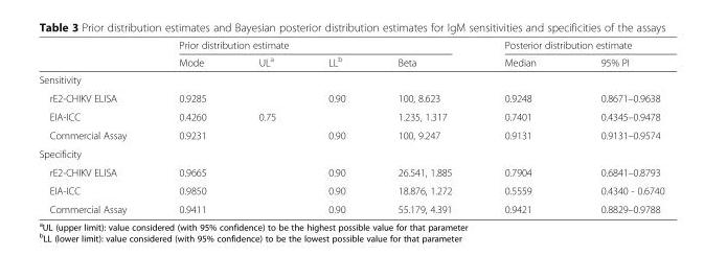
<table><thead><tr><td rowspan="2"></td><td colspan="4">Prior distribution estimate</td><td colspan="2">Posterior distribution estimate</td></tr><tr><td>Mode</td><td>UL<sup>a</sup></td><td>LL<sup>b</sup></td><td>Beta</td><td>Median</td><td>95% PI</td></tr></thead><tbody><tr><td colspan="7">Sensitivity</td></tr><tr><td>rE2-CHIKV ELISA</td><td>0.9285</td><td></td><td>0.90</td><td>100, 8.623</td><td>0.9248</td><td>0.8671–0.9638</td></tr><tr><td>EIA-ICC</td><td>0.4260</td><td>0.75</td><td></td><td>1.235, 1.317</td><td>0.7401</td><td>0.4345–0.9478</td></tr><tr><td>Commercial Assay</td><td>0.9231</td><td></td><td>0.90</td><td>100, 9.247</td><td>0.9131</td><td>0.9131–0.9574</td></tr><tr><td colspan="7">Specificity</td></tr><tr><td>rE2-CHIKV ELISA</td><td>0.9665</td><td></td><td>0.90</td><td>26.541, 1.885</td><td>0.7904</td><td>0.6841–0.8793</td></tr><tr><td>EIA-ICC</td><td>0.9850</td><td></td><td>0.90</td><td>18.876, 1.272</td><td>0.5559</td><td>0.4340 - 0.6740</td></tr><tr><td>Commercial Assay</td><td>0.9411</td><td></td><td>0.90</td><td>55.179, 4.391</td><td>0.9421</td><td>0.8829–0.9788</td></tr></tbody></table>